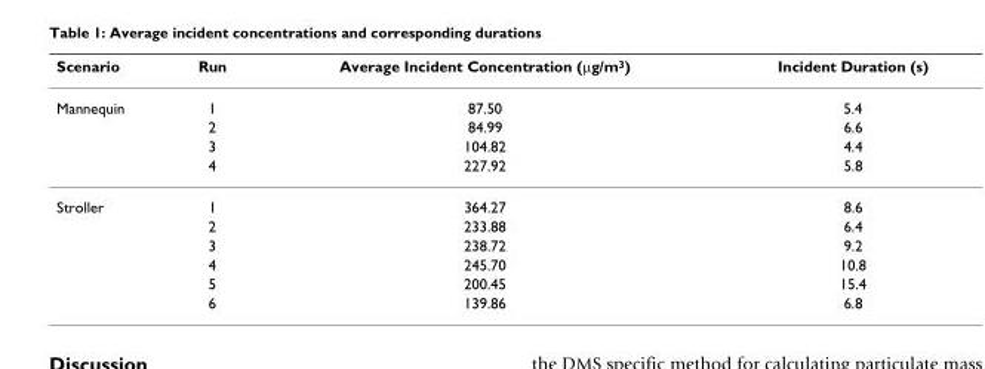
<table><thead><tr><td>Scenario</td><td>Run</td><td>Average Incident Concentration (μg/m<sup>3</sup>)</td><td>Incident Duration (s)</td></tr></thead><tbody><tr><td rowspan="4">Mannequin</td><td>1</td><td>87.50</td><td>5.4</td></tr><tr><td>2</td><td>84.99</td><td>6.6</td></tr><tr><td>3</td><td>104.82</td><td>4.4</td></tr><tr><td>4</td><td>227.92</td><td>5.8</td></tr><tr><td rowspan="6">Stroller</td><td>1</td><td>364.27</td><td>8.6</td></tr><tr><td>2</td><td>233.88</td><td>6.4</td></tr><tr><td>3</td><td>238.72</td><td>9.2</td></tr><tr><td>4</td><td>245.70</td><td>10.8</td></tr><tr><td>5</td><td>200.45</td><td>15.4</td></tr><tr><td>6</td><td>139.86</td><td>6.8</td></tr></tbody></table>